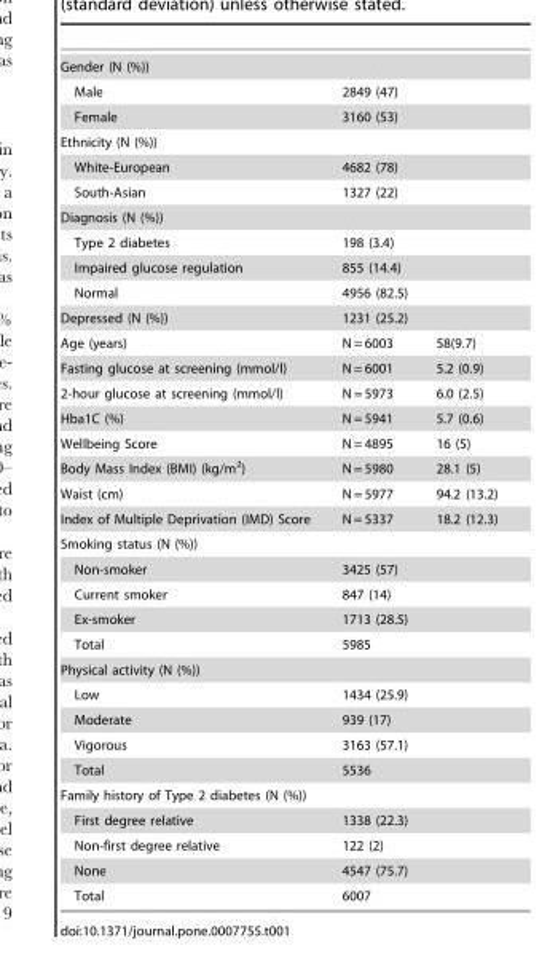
<table><tbody><tr><td colspan="3">Gender (N (%))</td></tr><tr><td>Male</td><td colspan="2">2849 (47)</td></tr><tr><td>Female</td><td colspan="2">3160 (53)</td></tr><tr><td colspan="3">Ethnicity (N (%))</td></tr><tr><td>White-European</td><td colspan="2">4682 (78)</td></tr><tr><td>South-Asian</td><td colspan="2">1327 (22)</td></tr><tr><td colspan="3">Diagnosis (N (%))</td></tr><tr><td>Type 2 diabetes</td><td colspan="2">198 (3.4)</td></tr><tr><td>Impaired glucose regulation</td><td colspan="2">855 (14.4)</td></tr><tr><td>Normal</td><td colspan="2">4956 (82.5)</td></tr><tr><td>Depressed (N (%))</td><td colspan="2">1231 (25.2)</td></tr><tr><td>Age (years)</td><td>N = 6003</td><td>58(9.7)</td></tr><tr><td>Fasting glucose at screening (mmol/l)</td><td>N = 6001</td><td>5.2 (0.9)</td></tr><tr><td>2-hour glucose at screening (mmol/l)</td><td>N = 5973</td><td>6.0 (2.5)</td></tr><tr><td>Hba1C (%)</td><td>N = 5941</td><td>5.7 (0.6)</td></tr><tr><td>Wellbeing Score</td><td>N = 4895</td><td>16 (5)</td></tr><tr><td>Body Mass Index (BMI) (kg/m<sup>2</sup>)</td><td>N = 5980</td><td>28.1 (5)</td></tr><tr><td>Waist (cm)</td><td>N = 5977</td><td>94.2 (13.2)</td></tr><tr><td>Index of Multiple Deprivation (IMD) Score</td><td>N = 5337</td><td>18.2 (12.3)</td></tr><tr><td colspan="3">Smoking status (N (%))</td></tr><tr><td>Non-smoker</td><td colspan="2">3425 (57)</td></tr><tr><td>Current smoker</td><td colspan="2">847 (14)</td></tr><tr><td>Ex-smoker</td><td colspan="2">1713 (28.5)</td></tr><tr><td>Total</td><td colspan="2">5985</td></tr><tr><td colspan="3">Physical activity (N (%))</td></tr><tr><td>Low</td><td colspan="2">1434 (25.9)</td></tr><tr><td>Moderate</td><td colspan="2">939 (17)</td></tr><tr><td>Vigorous</td><td colspan="2">3163 (57.1)</td></tr><tr><td>Total</td><td colspan="2">5536</td></tr><tr><td colspan="3">Family history of Type 2 diabetes (N (%))</td></tr><tr><td>First degree relative</td><td colspan="2">1338 (22.3)</td></tr><tr><td>Non-first degree relative</td><td colspan="2">122 (2)</td></tr><tr><td>None</td><td colspan="2">4547 (75.7)</td></tr><tr><td>Total</td><td colspan="2">6007</td></tr></tbody></table>